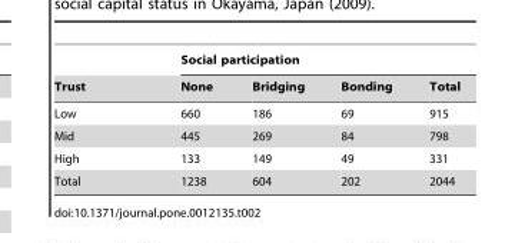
<table><thead><tr><td rowspan="2">Trust</td><td colspan="4">Social participation</td></tr><tr><td>None</td><td>Bridging</td><td>Bonding</td><td>Total</td></tr></thead><tbody><tr><td>Low</td><td>660</td><td>186</td><td>69</td><td>915</td></tr><tr><td>Mid</td><td>445</td><td>269</td><td>84</td><td>798</td></tr><tr><td>High</td><td>133</td><td>149</td><td>49</td><td>331</td></tr><tr><td>Total</td><td>1238</td><td>604</td><td>202</td><td>2044</td></tr></tbody></table>